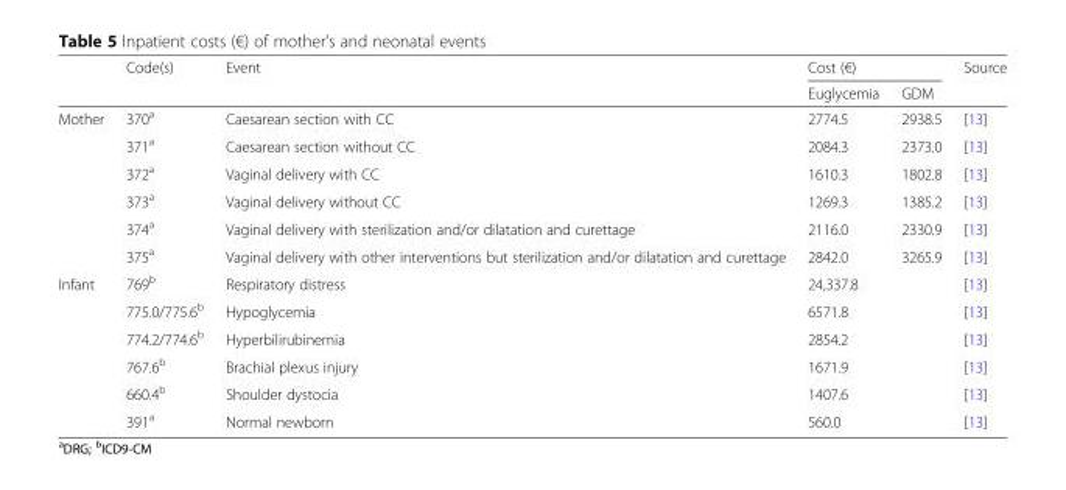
<table><thead><tr><td rowspan="2"></td><td rowspan="2">Code(s)</td><td rowspan="2">Event</td><td colspan="2">Cost (€)</td><td rowspan="2">Source</td></tr><tr><td>Euglycemia</td><td>GDM</td></tr></thead><tbody><tr><td rowspan="6">Mother</td><td>370<sup>a</sup></td><td>Caesarean section with CC</td><td>2774.5</td><td>2938.5</td><td>[13]</td></tr><tr><td>371<sup>a</sup></td><td>Caesarean section without CC</td><td>2084.3</td><td>2373.0</td><td>[13]</td></tr><tr><td>372<sup>a</sup></td><td>Vaginal delivery with CC</td><td>1610.3</td><td>1802.8</td><td>[13]</td></tr><tr><td>373<sup>a</sup></td><td>Vaginal delivery without CC</td><td>1269.3</td><td>1385.2</td><td>[13]</td></tr><tr><td>374<sup>a</sup></td><td>Vaginal delivery with sterilization and/or dilatation and curettage</td><td>2116.0</td><td>2330.9</td><td>[13]</td></tr><tr><td>375<sup>a</sup></td><td>Vaginal delivery with other interventions but sterilization and/or dilatation and curettage</td><td>2842.0</td><td>3265.9</td><td>[13]</td></tr><tr><td rowspan="6">Infant</td><td>769<sup>b</sup></td><td>Respiratory distress</td><td colspan="2">24,337.8</td><td>[13]</td></tr><tr><td>775.0/775.6<sup>b</sup></td><td>Hypoglycemia</td><td colspan="2">6571.8</td><td>[13]</td></tr><tr><td>774.2/774.6<sup>b</sup></td><td>Hyperbilirubinemia</td><td colspan="2">2854.2</td><td>[13]</td></tr><tr><td>767.6<sup>b</sup></td><td>Brachial plexus injury</td><td colspan="2">1671.9</td><td>[13]</td></tr><tr><td>660.4<sup>b</sup></td><td>Shoulder dystocia</td><td colspan="2">1407.6</td><td>[13]</td></tr><tr><td>391<sup>a</sup></td><td>Normal newborn</td><td colspan="2">560.0</td><td>[13]</td></tr></tbody></table>